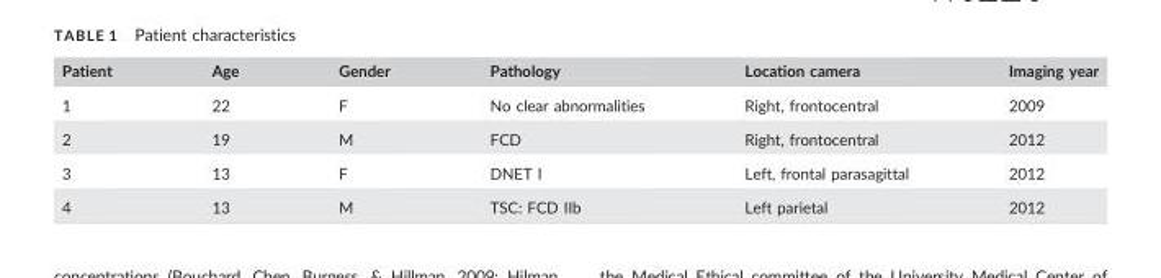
<table><thead><tr><td>Patient</td><td>Age</td><td>Gender</td><td>Pathology</td><td>Location camera</td><td>Imaging year</td></tr></thead><tbody><tr><td>1</td><td>22</td><td>F</td><td>No clear abnormalities</td><td>Right, frontocentral</td><td>2009</td></tr><tr><td>2</td><td>19</td><td>M</td><td>FCD</td><td>Right, frontocentral</td><td>2012</td></tr><tr><td>3</td><td>13</td><td>F</td><td>DNET I</td><td>Left, frontal parasagittal</td><td>2012</td></tr><tr><td>4</td><td>13</td><td>M</td><td>TSC: FCD IIb</td><td>Left parietal</td><td>2012</td></tr></tbody></table>